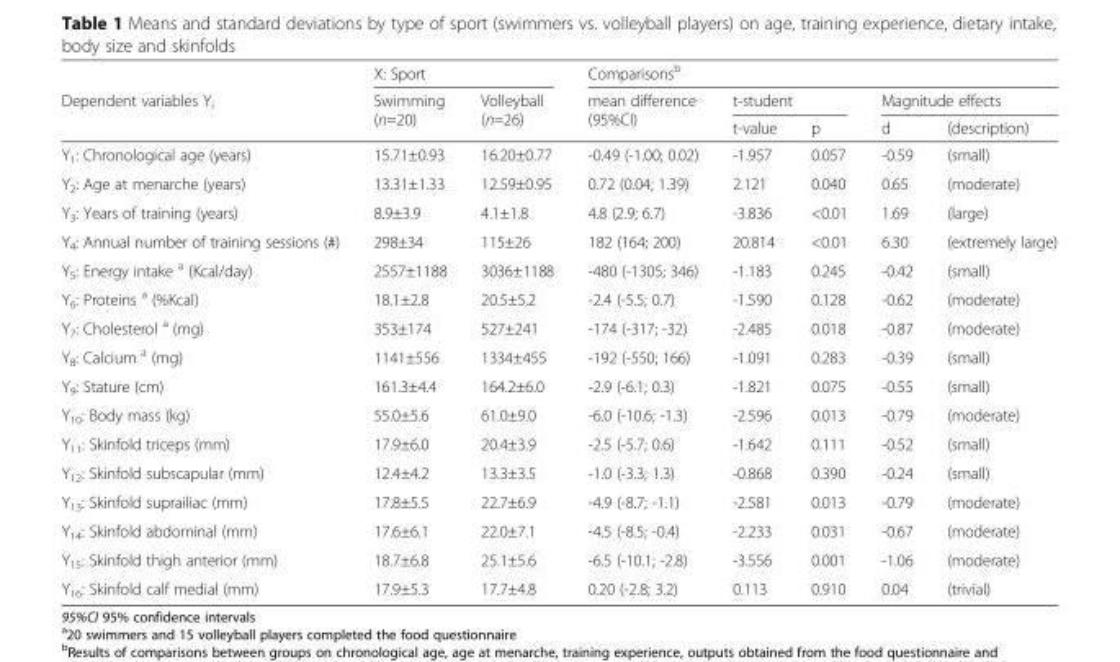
<table><thead><tr><td rowspan="3">Dependent variables Y<sub>i</sub></td><td colspan="2">X: Sport</td><td colspan="5">Comparisons<sup>b</sup></td></tr><tr><td rowspan="2">Swimming (n=20)</td><td rowspan="2">Volleyball (n=26)</td><td rowspan="2">mean difference (95%CI)</td><td colspan="2">t-student</td><td colspan="2">Magnitude effects</td></tr><tr><td>t-value</td><td>p</td><td>d</td><td>(description)</td></tr></thead><tbody><tr><td>Y<sub>1</sub>: Chronological age (years)</td><td>15.71±0.93</td><td>16.20±0.77</td><td>-0.49 (-1.00; 0.02)</td><td>-1.957</td><td>0.057</td><td>-0.59</td><td>(small)</td></tr><tr><td>Y<sub>2</sub>: Age at menarche (years)</td><td>13.31±1.33</td><td>12.59±0.95</td><td>0.72 (0.04; 1.39)</td><td>2.121</td><td>0.040</td><td>0.65</td><td>(moderate)</td></tr><tr><td>Y<sub>3</sub>: Years of training (years)</td><td>8.9±3.9</td><td>4.1±1.8</td><td>4.8 (2.9; 6.7)</td><td>-3.836</td><td>&lt;0.01</td><td>1.69</td><td>(large)</td></tr><tr><td>Y<sub>4</sub>: Annual number of training sessions (#)</td><td>298±34</td><td>115±26</td><td>182 (164; 200)</td><td>20.814</td><td>&lt;0.01</td><td>6.30</td><td>(extremely large)</td></tr><tr><td>Y<sub>5</sub>: Energy intake <sup>a</sup> (Kcal/day)</td><td>2557±1188</td><td>3036±1188</td><td>-480 (-1305; 346)</td><td>-1.183</td><td>0.245</td><td>-0.42</td><td>(small)</td></tr><tr><td>Y<sub>6</sub>: Proteins <sup>a</sup> (%Kcal)</td><td>18.1±2.8</td><td>20.5±5.2</td><td>-2.4 (-5.5; 0.7)</td><td>-1.590</td><td>0.128</td><td>-0.62</td><td>(moderate)</td></tr><tr><td>Y<sub>7</sub>: Cholesterol <sup>a</sup> (mg)</td><td>353±174</td><td>527±241</td><td>-174 (-317; -32)</td><td>-2.485</td><td>0.018</td><td>-0.87</td><td>(moderate)</td></tr><tr><td>Y<sub>8</sub>: Calcium <sup>a</sup> (mg)</td><td>1141±556</td><td>1334±455</td><td>-192 (-550; 166)</td><td>-1.091</td><td>0.283</td><td>-0.39</td><td>(small)</td></tr><tr><td>Y<sub>9</sub>: Stature (cm)</td><td>161.3±4.4</td><td>164.2±6.0</td><td>-2.9 (-6.1; 0.3)</td><td>-1.821</td><td>0.075</td><td>-0.55</td><td>(small)</td></tr><tr><td>Y<sub>10</sub>: Body mass (kg)</td><td>55.0±5.6</td><td>61.0±9.0</td><td>-6.0 (-10.6; -1.3)</td><td>-2.596</td><td>0.013</td><td>-0.79</td><td>(moderate)</td></tr><tr><td>Y<sub>11</sub>: Skinfold triceps (mm)</td><td>17.9±6.0</td><td>20.4±3.9</td><td>-2.5 (-5.7; 0.6)</td><td>-1.642</td><td>0.111</td><td>-0.52</td><td>(small)</td></tr><tr><td>Y<sub>12</sub>: Skinfold subscapular (mm)</td><td>12.4±4.2</td><td>13.3±3.5</td><td>-1.0 (-3.3; 1.3)</td><td>-0.868</td><td>0.390</td><td>-0.24</td><td>(small)</td></tr><tr><td>Y<sub>13</sub>: Skinfold suprailiac (mm)</td><td>17.8±5.5</td><td>22.7±6.9</td><td>-4.9 (-8.7; -1.1)</td><td>-2.581</td><td>0.013</td><td>-0.79</td><td>(moderate)</td></tr><tr><td>Y<sub>14</sub>: Skinfold abdominal (mm)</td><td>17.6±6.1</td><td>22.0±7.1</td><td>-4.5 (-8.5; -0.4)</td><td>-2.233</td><td>0.031</td><td>-0.67</td><td>(moderate)</td></tr><tr><td>Y<sub>15</sub>: Skinfold thigh anterior (mm)</td><td>18.7±6.8</td><td>25.1±5.6</td><td>-6.5 (-10.1; -2.8)</td><td>-3.556</td><td>0.001</td><td>-1.06</td><td>(moderate)</td></tr><tr><td>Y<sub>16</sub>: Skinfold calf medial (mm)</td><td>17.9±5.3</td><td>17.7±4.8</td><td>0.20 (-2.8; 3.2)</td><td>0.113</td><td>0.910</td><td>0.04</td><td>(trivial)</td></tr></tbody></table>